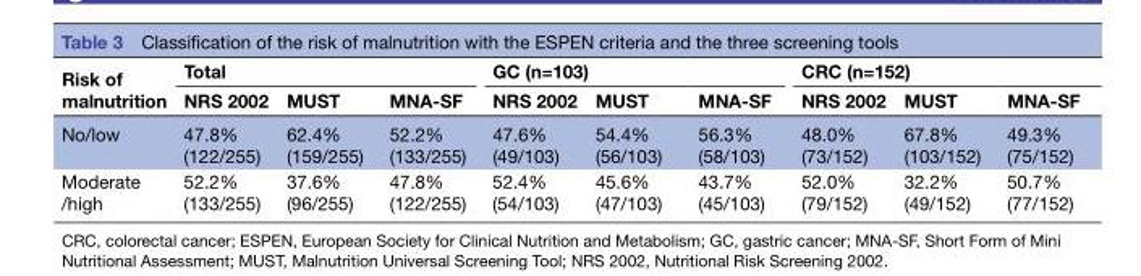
<table><thead><tr><td rowspan="2">Risk of malnutrition</td><td colspan="3">Total</td><td colspan="3">GC (n=103)</td><td colspan="3">CRC (n=152)</td></tr><tr><td>NRS 2002</td><td>MUST</td><td>MNA-SF</td><td>NRS 2002</td><td>MUST</td><td>MNA-SF</td><td>NRS 2002</td><td>MUST</td><td>MNA-SF</td></tr></thead><tbody><tr><td>No/low</td><td>47.8% (122/255)</td><td>62.4% (159/255)</td><td>52.2% (133/255)</td><td>47.6% (49/103)</td><td>54.4% (56/103)</td><td>56.3% (58/103)</td><td>48.0% (73/152)</td><td>67.8% (103/152)</td><td>49.3% (75/152)</td></tr><tr><td>Moderate /high</td><td>52.2% (133/255)</td><td>37.6% (96/255)</td><td>47.8% (122/255)</td><td>52.4% (54/103)</td><td>45.6% (47/103)</td><td>43.7% (45/103)</td><td>52.0% (79/152)</td><td>32.2% (49/152)</td><td>50.7% (77/152)</td></tr></tbody></table>